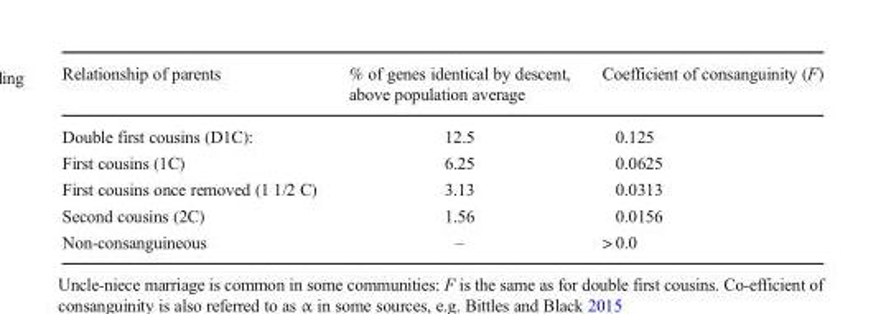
<table><thead><tr><td>Relationship of parents</td><td>% of genes identical by descent, above population average</td><td>Coefficient of consanguinity (F)</td></tr></thead><tbody><tr><td>Double first cousins (D1C):</td><td>12.5</td><td>0.125</td></tr><tr><td>First cousins (1C)</td><td>6.25</td><td>0.0625</td></tr><tr><td>First cousins once removed (1 1/2 C)</td><td>3.13</td><td>0.0313</td></tr><tr><td>Second cousins (2C)</td><td>1.56</td><td>0.0156</td></tr><tr><td>Non-consanguineous</td><td>–</td><td>&gt; 0.0</td></tr></tbody></table>